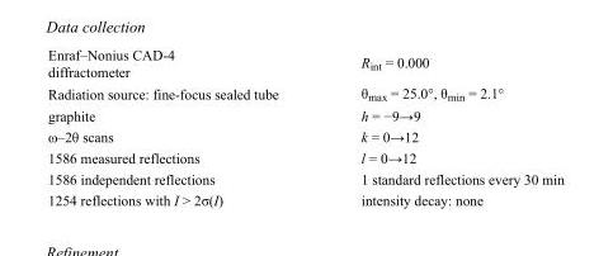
<table><tbody><tr><td>Enraf–Nonius CAD-4 diffractometer</td><td>Rint = 0.000</td></tr><tr><td>Radiation source: fine-focus sealed tube</td><td>θ<sub>max</sub> = 25.0°, θ<sub>min</sub> = 2.1°</td></tr><tr><td>graphite</td><td>h = −9→9</td></tr><tr><td>ω–2θ scans</td><td>k = 0→12</td></tr><tr><td>1586 measured reflections</td><td>l = 0→12</td></tr><tr><td>1586 independent reflections</td><td>1 standard reflections every 30 min</td></tr><tr><td>1254 reflections with I &gt; 2σ(I)</td><td>intensity decay: none</td></tr></tbody></table>